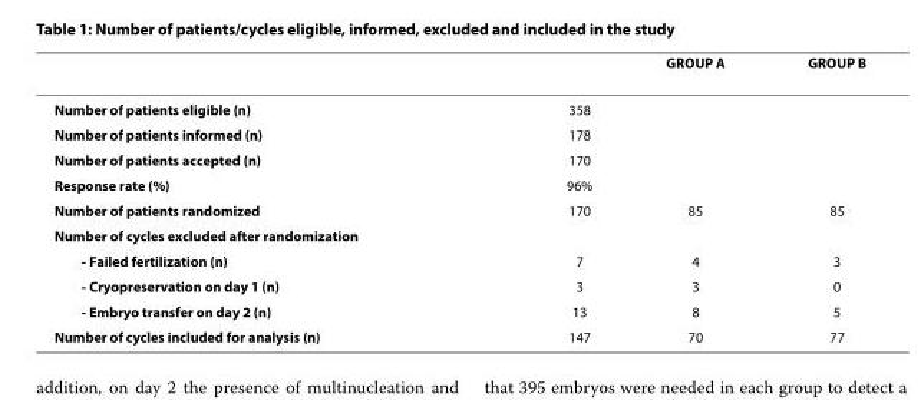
<table><thead><tr><td></td><td></td><td>GROUP A</td><td>GROUP B</td></tr></thead><tbody><tr><td>Number of patients eligible (n)</td><td>358</td><td></td><td></td></tr><tr><td>Number of patients informed (n)</td><td>178</td><td></td><td></td></tr><tr><td>Number of patients accepted (n)</td><td>170</td><td></td><td></td></tr><tr><td>Response rate (%)</td><td>96%</td><td></td><td></td></tr><tr><td>Number of patients randomized</td><td>170</td><td>85</td><td>85</td></tr><tr><td colspan="4">Number of cycles excluded after randomization</td></tr><tr><td>- Failed fertilization (n)</td><td>7</td><td>4</td><td>3</td></tr><tr><td>- Cryopreservation on day 1 (n)</td><td>3</td><td>3</td><td>0</td></tr><tr><td>- Embryo transfer on day 2 (n)</td><td>13</td><td>8</td><td>5</td></tr><tr><td>Number of cycles included for analysis (n)</td><td>147</td><td>70</td><td>77</td></tr></tbody></table>